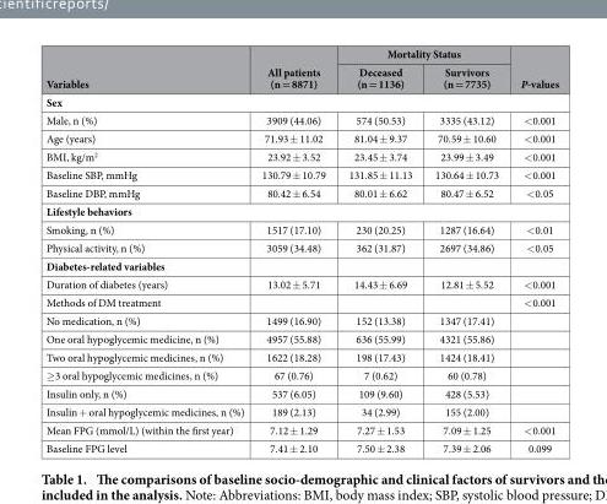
<table><thead><tr><td rowspan="2">Variables</td><td rowspan="2">All patients (n = 8871)</td><td colspan="2">Mortality Status</td><td rowspan="2">P-values</td></tr><tr><td>Deceased (n = 1136)</td><td>Survivors (n = 7735)</td></tr></thead><tbody><tr><td colspan="5">Sex</td></tr><tr><td>Male, n (%)</td><td>3909 (44.06)</td><td>574 (50.53)</td><td>3335 (43.12)</td><td>&lt; 0.001</td></tr><tr><td>Age (years)</td><td>71.93 ± 11.02</td><td>81.04 ± 9.37</td><td>70.59 ± 10.60</td><td>&lt; 0.001</td></tr><tr><td>BMI, kg/m<sup>2</sup></td><td>23.92 ± 3.52</td><td>23.45 ± 3.74</td><td>23.99 ± 3.49</td><td>&lt; 0.001</td></tr><tr><td>Baseline SBP, mmHg</td><td>130.79 ± 10.79</td><td>131.85 ± 11.13</td><td>130.64 ± 10.73</td><td>&lt; 0.001</td></tr><tr><td>Baseline DBP, mmHg</td><td>80.42 ± 6.54</td><td>80.01 ± 6.62</td><td>80.47 ± 6.52</td><td>&lt; 0.05</td></tr><tr><td colspan="5">Lifestyle behaviors</td></tr><tr><td>Smoking, n (%)</td><td>1517 (17.10)</td><td>230 (20.25)</td><td>1287 (16.64)</td><td>&lt; 0.01</td></tr><tr><td>Physical activity, n (%)</td><td>3059 (34.48)</td><td>362 (31.87)</td><td>2697 (34.86)</td><td>&lt; 0.05</td></tr><tr><td colspan="5">Diabetes-related variables</td></tr><tr><td>Duration of diabetes (years)</td><td>13.02 ± 5.71</td><td>14.43 ± 6.69</td><td>12.81 ± 5.52</td><td>&lt; 0.001</td></tr><tr><td>Methods of DM treatment</td><td></td><td></td><td></td><td>&lt; 0.001</td></tr><tr><td>No medication, n (%)</td><td>1499 (16.90)</td><td>152 (13.38)</td><td>1347 (17.41)</td><td></td></tr><tr><td>One oral hypoglycemic medicine, n (%)</td><td>4957 (55.88)</td><td>636 (55.99)</td><td>4321 (55.86)</td><td></td></tr><tr><td>Two oral hypoglycemic medicines, n (%)</td><td>1622 (18.28)</td><td>198 (17.43)</td><td>1424 (18.41)</td><td></td></tr><tr><td>≥ 3 oral hypoglycemic medicines, n (%)</td><td>67 (0.76)</td><td>7 (0.62)</td><td>60 (0.78)</td><td></td></tr><tr><td>Insulin only, n (%)</td><td>537 (6.05)</td><td>109 (9.60)</td><td>428 (5.53)</td><td></td></tr><tr><td>Insulin + oral hypoglycemic medicines, n (%)</td><td>189 (2.13)</td><td>34 (2.99)</td><td>155 (2.00)</td><td></td></tr><tr><td>Mean FPG (mmol/L) (within the first year)</td><td>7.12 ± 1.29</td><td>7.27 ± 1.53</td><td>7.09 ± 1.25</td><td>&lt; 0.001</td></tr><tr><td>Baseline FPG level</td><td>7.41 ± 2.10</td><td>7.50 ± 2.38</td><td>7.39 ± 2.06</td><td>0.099</td></tr></tbody></table>